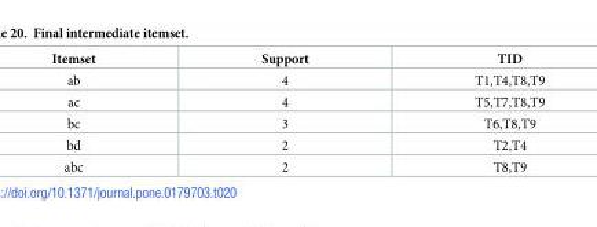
<table><thead><tr><td>Itemset</td><td>Support</td><td>TID</td></tr></thead><tbody><tr><td>ab</td><td>4</td><td>T1,T4,T8,T9</td></tr><tr><td>ac</td><td>4</td><td>T5,T7,T8,T9</td></tr><tr><td>bc</td><td>3</td><td>T6,T8,T9</td></tr><tr><td>bd</td><td>2</td><td>T2,T4</td></tr><tr><td>abc</td><td>2</td><td>T8,T9</td></tr></tbody></table>